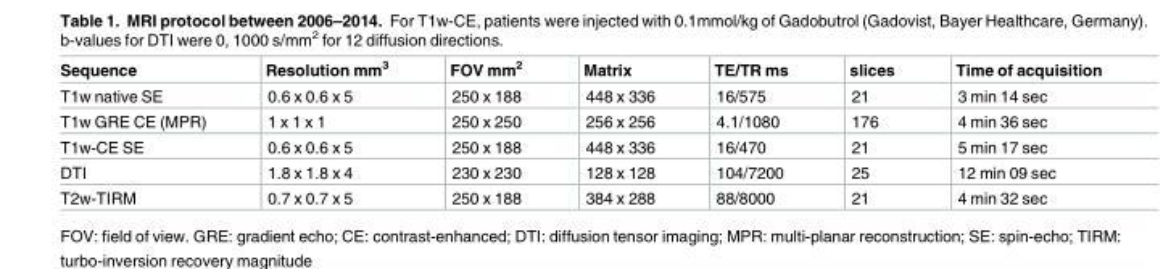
<table><thead><tr><td>Sequence</td><td>Resolution mm<sup>3</sup></td><td>FOV mm<sup>2</sup></td><td>Matrix</td><td>TE/TR ms</td><td>slices</td><td>Time of acquisition</td></tr></thead><tbody><tr><td>T1w native SE</td><td>0.6 x 0.6 x 5</td><td>250 x 188</td><td>448 x 336</td><td>16/575</td><td>21</td><td>3 min 14 sec</td></tr><tr><td>T1w GRE CE (MPR)</td><td>1 x 1 x 1</td><td>250 x 250</td><td>256 x 256</td><td>4.1/1080</td><td>176</td><td>4 min 36 sec</td></tr><tr><td>T1w-CE SE</td><td>0.6 x 0.6 x 5</td><td>250 x 188</td><td>448 x 336</td><td>16/470</td><td>21</td><td>5 min 17 sec</td></tr><tr><td>DTI</td><td>1.8 x 1.8 x 4</td><td>230 x 230</td><td>128 x 128</td><td>104/7200</td><td>25</td><td>12 min 09 sec</td></tr><tr><td>T2w-TIRM</td><td>0.7 x 0.7 x 5</td><td>250 x 188</td><td>384 x 288</td><td>88/8000</td><td>21</td><td>4 min 32 sec</td></tr></tbody></table>